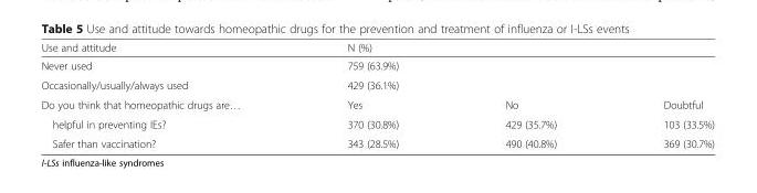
<table><thead><tr><td>Use and attitude</td><td>N (%)</td><td></td><td></td></tr></thead><tbody><tr><td>Never used</td><td>759 (63.9%)</td><td></td><td></td></tr><tr><td>Occasionally/usually/always used</td><td>429 (36.1%)</td><td></td><td></td></tr><tr><td>Do you think that homeopathic drugs are…</td><td>Yes</td><td>No</td><td>Doubtful</td></tr><tr><td>helpful in preventing IEs?</td><td>370 (30.8%)</td><td>429 (35.7%)</td><td>103 (33.5%)</td></tr><tr><td>Safer than vaccination?</td><td>343 (28.5%)</td><td>490 (40.8%)</td><td>369 (30.7%)</td></tr></tbody></table>